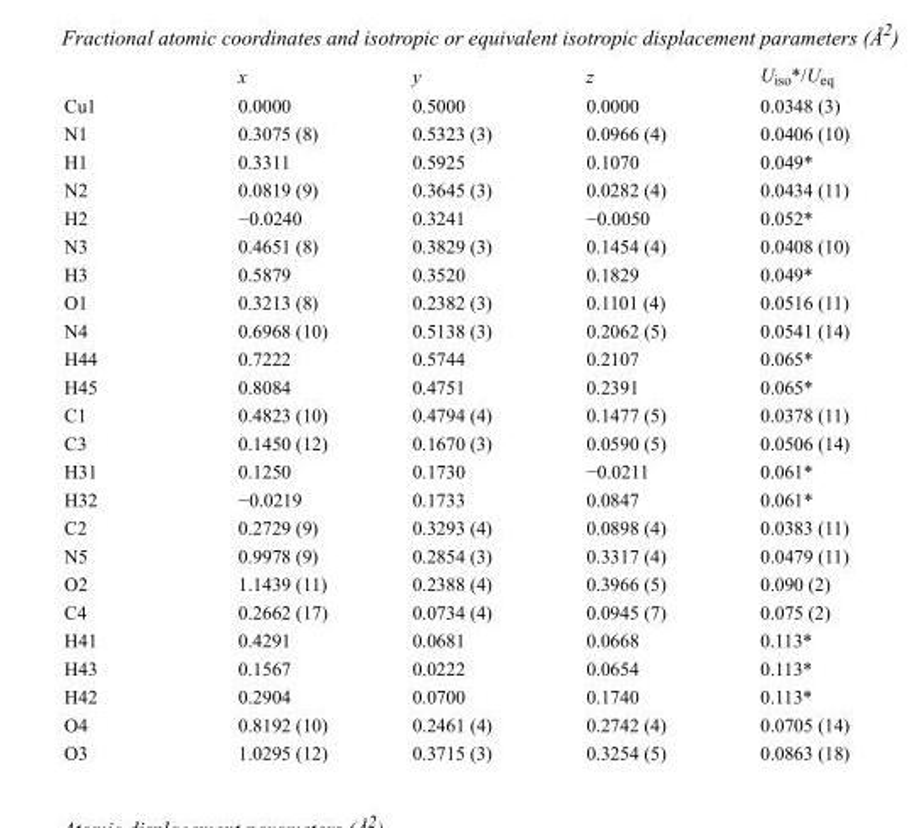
<table><thead><tr><td></td><td>x</td><td>y</td><td>z</td><td>U<sub>iso</sub>*/U<sub>eq</sub></td></tr></thead><tbody><tr><td>Cu1</td><td>0.0000</td><td>0.5000</td><td>0.0000</td><td>0.0348 (3)</td></tr><tr><td>N1</td><td>0.3075 (8)</td><td>0.5323 (3)</td><td>0.0966 (4)</td><td>0.0406 (10)</td></tr><tr><td>H1</td><td>0.3311</td><td>0.5925</td><td>0.1070</td><td>0.049*</td></tr><tr><td>N2</td><td>0.0819 (9)</td><td>0.3645 (3)</td><td>0.0282 (4)</td><td>0.0434 (11)</td></tr><tr><td>H2</td><td>−0.0240</td><td>0.3241</td><td>−0.0050</td><td>0.052*</td></tr><tr><td>N3</td><td>0.4651 (8)</td><td>0.3829 (3)</td><td>0.1454 (4)</td><td>0.0408 (10)</td></tr><tr><td>H3</td><td>0.5879</td><td>0.3520</td><td>0.1829</td><td>0.049*</td></tr><tr><td>O1</td><td>0.3213 (8)</td><td>0.2382 (3)</td><td>0.1101 (4)</td><td>0.0516 (11)</td></tr><tr><td>N4</td><td>0.6968 (10)</td><td>0.5138 (3)</td><td>0.2062 (5)</td><td>0.0541 (14)</td></tr><tr><td>H44</td><td>0.7222</td><td>0.5744</td><td>0.2107</td><td>0.065*</td></tr><tr><td>H45</td><td>0.8084</td><td>0.4751</td><td>0.2391</td><td>0.065*</td></tr><tr><td>C1</td><td>0.4823 (10)</td><td>0.4794 (4)</td><td>0.1477 (5)</td><td>0.0378 (11)</td></tr><tr><td>C3</td><td>0.1450 (12)</td><td>0.1670 (3)</td><td>0.0590 (5)</td><td>0.0506 (14)</td></tr><tr><td>H31</td><td>0.1250</td><td>0.1730</td><td>−0.0211</td><td>0.061*</td></tr><tr><td>H32</td><td>−0.0219</td><td>0.1733</td><td>0.0847</td><td>0.061*</td></tr><tr><td>C2</td><td>0.2729 (9)</td><td>0.3293 (4)</td><td>0.0898 (4)</td><td>0.0383 (11)</td></tr><tr><td>N5</td><td>0.9978 (9)</td><td>0.2854 (3)</td><td>0.3317 (4)</td><td>0.0479 (11)</td></tr><tr><td>O2</td><td>1.1439 (11)</td><td>0.2388 (4)</td><td>0.3966 (5)</td><td>0.090 (2)</td></tr><tr><td>C4</td><td>0.2662 (17)</td><td>0.0734 (4)</td><td>0.0945 (7)</td><td>0.075 (2)</td></tr><tr><td>H41</td><td>0.4291</td><td>0.0681</td><td>0.0668</td><td>0.113*</td></tr><tr><td>H43</td><td>0.1567</td><td>0.0222</td><td>0.0654</td><td>0.113*</td></tr><tr><td>H42</td><td>0.2904</td><td>0.0700</td><td>0.1740</td><td>0.113*</td></tr><tr><td>O4</td><td>0.8192 (10)</td><td>0.2461 (4)</td><td>0.2742 (4)</td><td>0.0705 (14)</td></tr><tr><td>O3</td><td>1.0295 (12)</td><td>0.3715 (3)</td><td>0.3254 (5)</td><td>0.0863 (18)</td></tr></tbody></table>